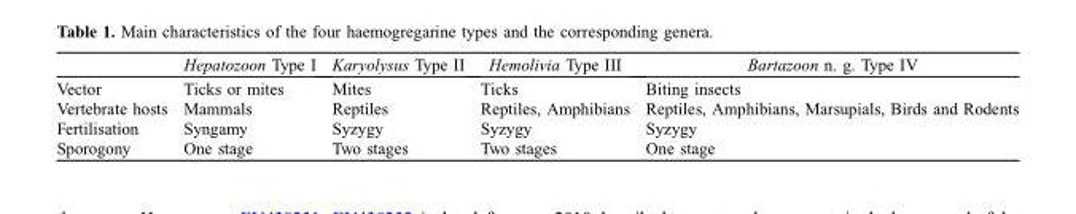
<table><thead><tr><td></td><td>Hepatozoon Type I</td><td>Karyolysus Type II</td><td>Hemolivia Type III</td><td>Bartazoon n. g. Type IV</td></tr></thead><tbody><tr><td>Vector</td><td>Ticks or mites</td><td>Mites</td><td>Ticks</td><td>Biting insects</td></tr><tr><td>Vertebrate hosts</td><td>Mammals</td><td>Reptiles</td><td>Reptiles, Amphibians</td><td>Reptiles, Amphibians, Marsupials, Birds and Rodents</td></tr><tr><td>Fertilisation</td><td>Syngamy</td><td>Syzygy</td><td>Syzygy</td><td>Syzygy</td></tr><tr><td>Sporogony</td><td>One stage</td><td>Two stages</td><td>Two stages</td><td>One stage</td></tr></tbody></table>